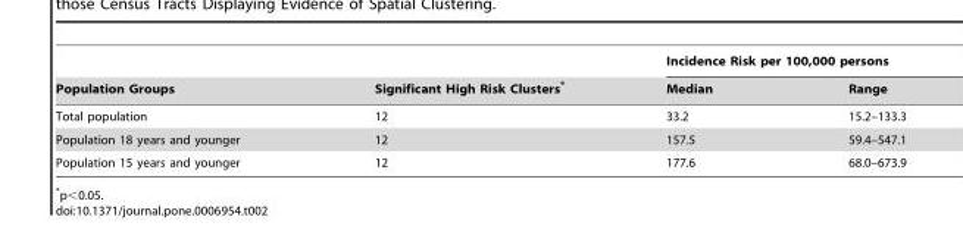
<table><thead><tr><td rowspan="2">Population Groups</td><td rowspan="2">Significant High Risk Clusters*</td><td colspan="2">Incidence Risk per 100,000 persons</td></tr><tr><td>Median</td><td>Range</td></tr></thead><tbody><tr><td>Total population</td><td>12</td><td>33.2</td><td>15.2–133.3</td></tr><tr><td>Population 18 years and younger</td><td>12</td><td>157.5</td><td>59.4–547.1</td></tr><tr><td>Population 15 years and younger</td><td>12</td><td>177.6</td><td>68.0–673.9</td></tr></tbody></table>